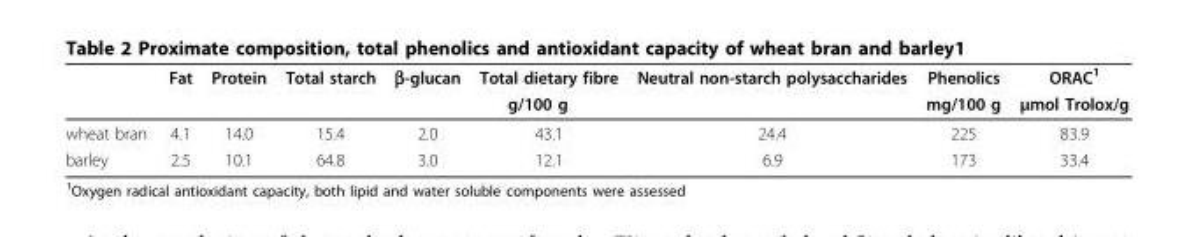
<table><thead><tr><td rowspan="2"></td><td>Fat</td><td>Protein</td><td>Total starch</td><td>β-glucan</td><td>Total dietary fibre</td><td>Neutral non-starch polysaccharides</td><td rowspan="2">Phenolics mg/100 g</td><td rowspan="2">ORAC<sup>1</sup> μmol Trolox/g</td></tr><tr><td colspan="6">g/100 g</td></tr></thead><tbody><tr><td>wheat bran</td><td>4.1</td><td>14.0</td><td>15.4</td><td>2.0</td><td>43.1</td><td>24.4</td><td>225</td><td>83.9</td></tr><tr><td>barley</td><td>2.5</td><td>10.1</td><td>64.8</td><td>3.0</td><td>12.1</td><td>6.9</td><td>173</td><td>33.4</td></tr></tbody></table>